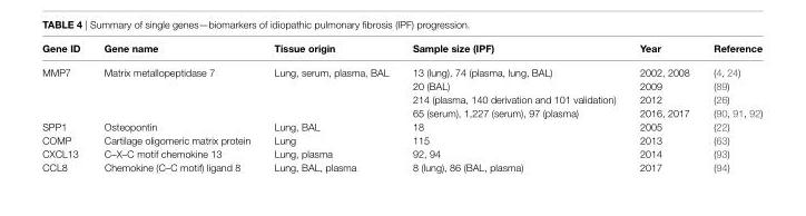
<table><thead><tr><td>gene iD</td><td>gene name</td><td>Tissue origin</td><td>Sample size (iPF)</td><td>Year</td><td>Reference</td></tr></thead><tbody><tr><td>MMP7</td><td>Matrix metallopeptidase 7</td><td>Lung, serum, plasma, BAL</td><td>13 (lung), 74 (plasma, lung, BAL) 20 (BAL) 214 (plasma, 140 derivation and 101 validation) 65 (serum), 1,227 (serum), 97 (plasma)</td><td>2002, 2008 2009 2012 2016, 2017</td><td>(4, 24) (89) (26) (90, 91, 92)</td></tr><tr><td>SPP1</td><td>Osteopontin</td><td>Lung, BAL</td><td>18</td><td>2005</td><td>(22)</td></tr><tr><td>COMP</td><td>Cartilage oligomeric matrix protein</td><td>Lung</td><td>115</td><td>2013</td><td>(63)</td></tr><tr><td>CXCL13</td><td>C–X–C motif chemokine 13</td><td>Lung, plasma</td><td>92, 94</td><td>2014</td><td>(93)</td></tr><tr><td>CCL8</td><td>Chemokine (C–C motif) ligand 8</td><td>Lung, BAL, plasma</td><td>8 (lung), 86 (BAL, plasma)</td><td>2017</td><td>(94)</td></tr></tbody></table>